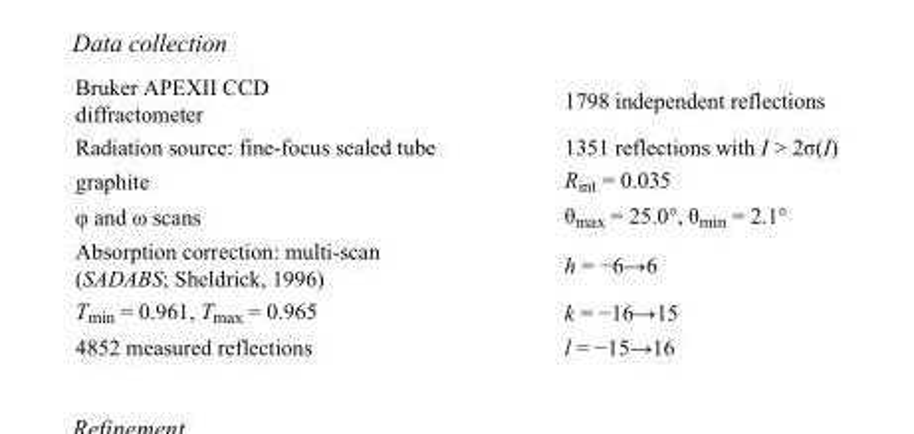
<table><tbody><tr><td>Bruker APEXII CCD diffractometer</td><td>1798 independent reflections</td></tr><tr><td>Radiation source: fine-focus sealed tube</td><td>1351 reflections with I &gt; 2σ(I)</td></tr><tr><td>graphite</td><td>R<sub>int</sub> = 0.035</td></tr><tr><td>φ and ω scans</td><td>θ<sub>max</sub> = 25.0°, θ<sub>min</sub> = 2.1°</td></tr><tr><td>Absorption correction: multi-scan (SADABS; Sheldrick, 1996)</td><td>h = −6→6</td></tr><tr><td>T<sub>min</sub> = 0.961, T<sub>max</sub> = 0.965</td><td>k = −16→15</td></tr><tr><td>4852 measured reflections</td><td>l = −15→16</td></tr></tbody></table>